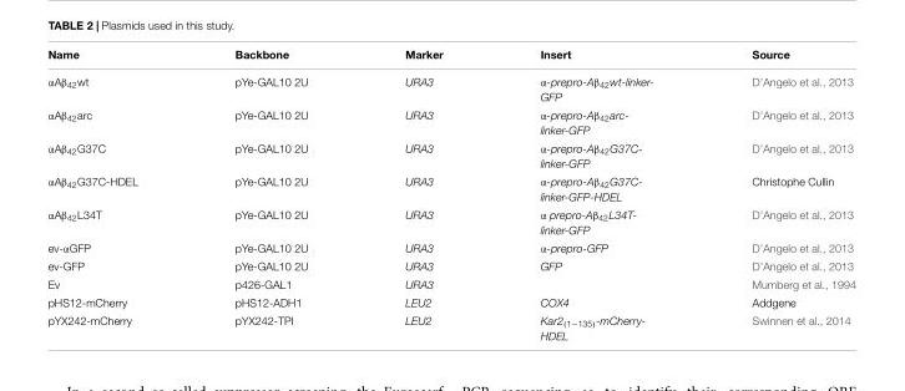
<table><thead><tr><td>Name</td><td>Backbone</td><td>Marker</td><td>Insert</td><td>Source</td></tr></thead><tbody><tr><td>αAβ<sub>42</sub>wt</td><td>pYe-GAL10 2U</td><td>URA3</td><td>α-prepro-Aβ<sub>42</sub>wt-linker- GFP</td><td>D’Angelo et al., 2013</td></tr><tr><td>αAβ<sub>42</sub>arc</td><td>pYe-GAL10 2U</td><td>URA3</td><td>α-prepro-Aβ<sub>42</sub>arc- linker-GFP</td><td>D’Angelo et al., 2013</td></tr><tr><td>αAβ<sub>42</sub>G37C</td><td>pYe-GAL10 2U</td><td>URA3</td><td>α-prepro-Aβ<sub>42</sub>G37C- linker-GFP</td><td>D’Angelo et al., 2013</td></tr><tr><td>αAβ<sub>42</sub>G37C-HDEL</td><td>pYe-GAL10 2U</td><td>URA3</td><td>α-prepro-Aβ<sub>42</sub>G37C- linker-GFP-HDEL</td><td>Christophe Cullin</td></tr><tr><td>αAβ<sub>42</sub>L34T</td><td>pYe-GAL10 2U</td><td>URA3</td><td>α prepro-Aβ<sub>42</sub>L34T- linker-GFP</td><td>D’Angelo et al., 2013</td></tr><tr><td>ev-αGFP</td><td>pYe-GAL10 2U</td><td>URA3</td><td>α-prepro-GFP</td><td>D’Angelo et al., 2013</td></tr><tr><td>ev-GFP</td><td>pYe-GAL10 2U</td><td>URA3</td><td>GFP</td><td>D’Angelo et al., 2013</td></tr><tr><td>Ev</td><td>p426-GAL1</td><td>URA3</td><td></td><td>Mumberg et al., 1994</td></tr><tr><td>pHS12-mCherry</td><td>pHS12-ADH1</td><td>LEU2</td><td>COX4</td><td>Addgene</td></tr><tr><td>pYX242-mCherry</td><td>pYX242-TPI</td><td>LEU2</td><td>Kar2<sub>(1−135)</sub>-mCherry- HDEL</td><td>Swinnen et al., 2014</td></tr></tbody></table>